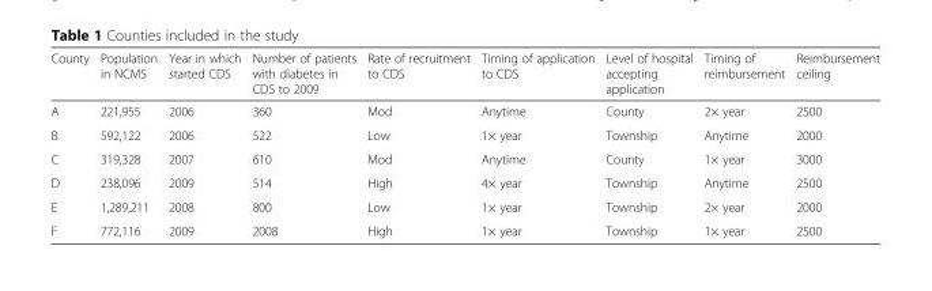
<table><thead><tr><td>County</td><td>Population in NCMS</td><td>Year in which started CDS</td><td>Number of patients with diabetes in CDS to 2009</td><td>Rate of recruitment to CDS</td><td>Timing of application to CDS</td><td>Level of hospital accepting application</td><td>Timing of reimbursement</td><td>Reimbursement ceiling</td></tr></thead><tbody><tr><td>A</td><td>221,955</td><td>2006</td><td>360</td><td>Mod</td><td>Anytime</td><td>County</td><td>2× year</td><td>2500</td></tr><tr><td>B</td><td>592,122</td><td>2006</td><td>522</td><td>Low</td><td>1× year</td><td>Township</td><td>Anytime</td><td>2000</td></tr><tr><td>C</td><td>319,328</td><td>2007</td><td>610</td><td>Mod</td><td>Anytime</td><td>County</td><td>1× year</td><td>3000</td></tr><tr><td>D</td><td>238,096</td><td>2009</td><td>514</td><td>High</td><td>4× year</td><td>Township</td><td>Anytime</td><td>2500</td></tr><tr><td>E</td><td>1,289,211</td><td>2008</td><td>800</td><td>Low</td><td>1× year</td><td>Township</td><td>2× year</td><td>2000</td></tr><tr><td>F</td><td>772,116</td><td>2009</td><td>2008</td><td>High</td><td>1× year</td><td>Township</td><td>1× year</td><td>2500</td></tr></tbody></table>